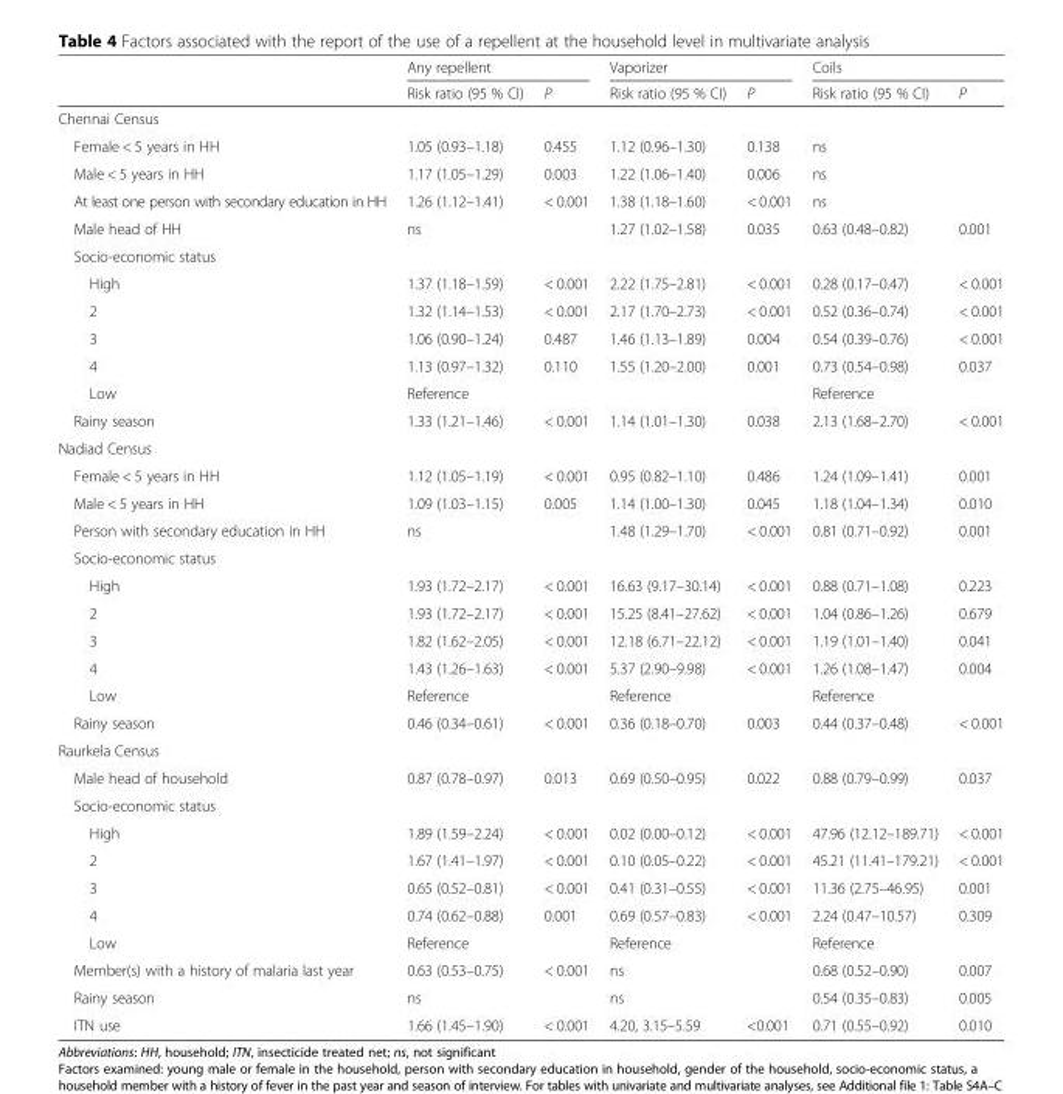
<table><thead><tr><td rowspan="2"></td><td colspan="2">Any repellent</td><td colspan="2">Vaporizer</td><td colspan="2">Coils</td></tr><tr><td>Risk ratio (95 % CI)</td><td>P</td><td>Risk ratio (95 % CI)</td><td>P</td><td>Risk ratio (95 % CI)</td><td>P</td></tr></thead><tbody><tr><td colspan="7">Chennai Census</td></tr><tr><td>Female &lt; 5 years in HH</td><td>1.05 (0.93–1.18)</td><td>0.455</td><td>1.12 (0.96–1.30)</td><td>0.138</td><td>ns</td><td></td></tr><tr><td>Male &lt; 5 years in HH</td><td>1.17 (1.05–1.29)</td><td>0.003</td><td>1.22 (1.06–1.40)</td><td>0.006</td><td>ns</td><td></td></tr><tr><td>At least one person with secondary education in HH</td><td>1.26 (1.12–1.41)</td><td>&lt; 0.001</td><td>1.38 (1.18–1.60)</td><td>&lt; 0.001</td><td>ns</td><td></td></tr><tr><td>Male head of HH</td><td>ns</td><td></td><td>1.27 (1.02–1.58)</td><td>0.035</td><td>0.63 (0.48–0.82)</td><td>0.001</td></tr><tr><td colspan="7">Socio-economic status</td></tr><tr><td>High</td><td>1.37 (1.18–1.59)</td><td>&lt; 0.001</td><td>2.22 (1.75–2.81)</td><td>&lt; 0.001</td><td>0.28 (0.17–0.47)</td><td>&lt; 0.001</td></tr><tr><td>2</td><td>1.32 (1.14–1.53)</td><td>&lt; 0.001</td><td>2.17 (1.70–2.73)</td><td>&lt; 0.001</td><td>0.52 (0.36–0.74)</td><td>&lt; 0.001</td></tr><tr><td>3</td><td>1.06 (0.90–1.24)</td><td>0.487</td><td>1.46 (1.13–1.89)</td><td>0.004</td><td>0.54 (0.39–0.76)</td><td>&lt; 0.001</td></tr><tr><td>4</td><td>1.13 (0.97–1.32)</td><td>0.110</td><td>1.55 (1.20–2.00)</td><td>0.001</td><td>0.73 (0.54–0.98)</td><td>0.037</td></tr><tr><td>Low</td><td>Reference</td><td></td><td></td><td></td><td>Reference</td><td></td></tr><tr><td>Rainy season</td><td>1.33 (1.21–1.46)</td><td>&lt; 0.001</td><td>1.14 (1.01–1.30)</td><td>0.038</td><td>2.13 (1.68–2.70)</td><td>&lt; 0.001</td></tr><tr><td colspan="7">Nadiad Census</td></tr><tr><td>Female &lt; 5 years in HH</td><td>1.12 (1.05–1.19)</td><td>&lt; 0.001</td><td>0.95 (0.82–1.10)</td><td>0.486</td><td>1.24 (1.09–1.41)</td><td>0.001</td></tr><tr><td>Male &lt; 5 years in HH</td><td>1.09 (1.03–1.15)</td><td>0.005</td><td>1.14 (1.00–1.30)</td><td>0.045</td><td>1.18 (1.04–1.34)</td><td>0.010</td></tr><tr><td>Person with secondary education in HH</td><td>ns</td><td></td><td>1.48 (1.29–1.70)</td><td>&lt; 0.001</td><td>0.81 (0.71–0.92)</td><td>0.001</td></tr><tr><td colspan="7">Socio-economic status</td></tr><tr><td>High</td><td>1.93 (1.72–2.17)</td><td>&lt; 0.001</td><td>16.63 (9.17–30.14)</td><td>&lt; 0.001</td><td>0.88 (0.71–1.08)</td><td>0.223</td></tr><tr><td>2</td><td>1.93 (1.72–2.17)</td><td>&lt; 0.001</td><td>15.25 (8.41–27.62)</td><td>&lt; 0.001</td><td>1.04 (0.86–1.26)</td><td>0.679</td></tr><tr><td>3</td><td>1.82 (1.62–2.05)</td><td>&lt; 0.001</td><td>12.18 (6.71–22.12)</td><td>&lt; 0.001</td><td>1.19 (1.01–1.40)</td><td>0.041</td></tr><tr><td>4</td><td>1.43 (1.26–1.63)</td><td>&lt; 0.001</td><td>5.37 (2.90–9.98)</td><td>&lt; 0.001</td><td>1.26 (1.08–1.47)</td><td>0.004</td></tr><tr><td>Low</td><td>Reference</td><td></td><td>Reference</td><td></td><td>Reference</td><td></td></tr><tr><td>Rainy season</td><td>0.46 (0.34–0.61)</td><td>&lt; 0.001</td><td>0.36 (0.18–0.70)</td><td>0.003</td><td>0.44 (0.37–0.48)</td><td>&lt; 0.001</td></tr><tr><td colspan="7">Raurkela Census</td></tr><tr><td>Male head of household</td><td>0.87 (0.78–0.97)</td><td>0.013</td><td>0.69 (0.50–0.95)</td><td>0.022</td><td>0.88 (0.79–0.99)</td><td>0.037</td></tr><tr><td colspan="7">Socio-economic status</td></tr><tr><td>High</td><td>1.89 (1.59–2.24)</td><td>&lt; 0.001</td><td>0.02 (0.00–0.12)</td><td>&lt; 0.001</td><td>47.96 (12.12–189.71)</td><td>&lt; 0.001</td></tr><tr><td>2</td><td>1.67 (1.41–1.97)</td><td>&lt; 0.001</td><td>0.10 (0.05–0.22)</td><td>&lt; 0.001</td><td>45.21 (11.41–179.21)</td><td>&lt; 0.001</td></tr><tr><td>3</td><td>0.65 (0.52–0.81)</td><td>&lt; 0.001</td><td>0.41 (0.31–0.55)</td><td>&lt; 0.001</td><td>11.36 (2.75–46.95)</td><td>0.001</td></tr><tr><td>4</td><td>0.74 (0.62–0.88)</td><td>0.001</td><td>0.69 (0.57–0.83)</td><td>&lt; 0.001</td><td>2.24 (0.47–10.57)</td><td>0.309</td></tr><tr><td>Low</td><td>Reference</td><td></td><td>Reference</td><td></td><td>Reference</td><td></td></tr><tr><td>Member(s) with a history of malaria last year</td><td>0.63 (0.53–0.75)</td><td>&lt; 0.001</td><td>ns</td><td></td><td>0.68 (0.52–0.90)</td><td>0.007</td></tr><tr><td>Rainy season</td><td>ns</td><td></td><td>ns</td><td></td><td>0.54 (0.35–0.83)</td><td>0.005</td></tr><tr><td>ITN use</td><td>1.66 (1.45–1.90)</td><td>&lt; 0.001</td><td>4.20, 3.15–5.59</td><td>&lt;0.001</td><td>0.71 (0.55–0.92)</td><td>0.010</td></tr></tbody></table>